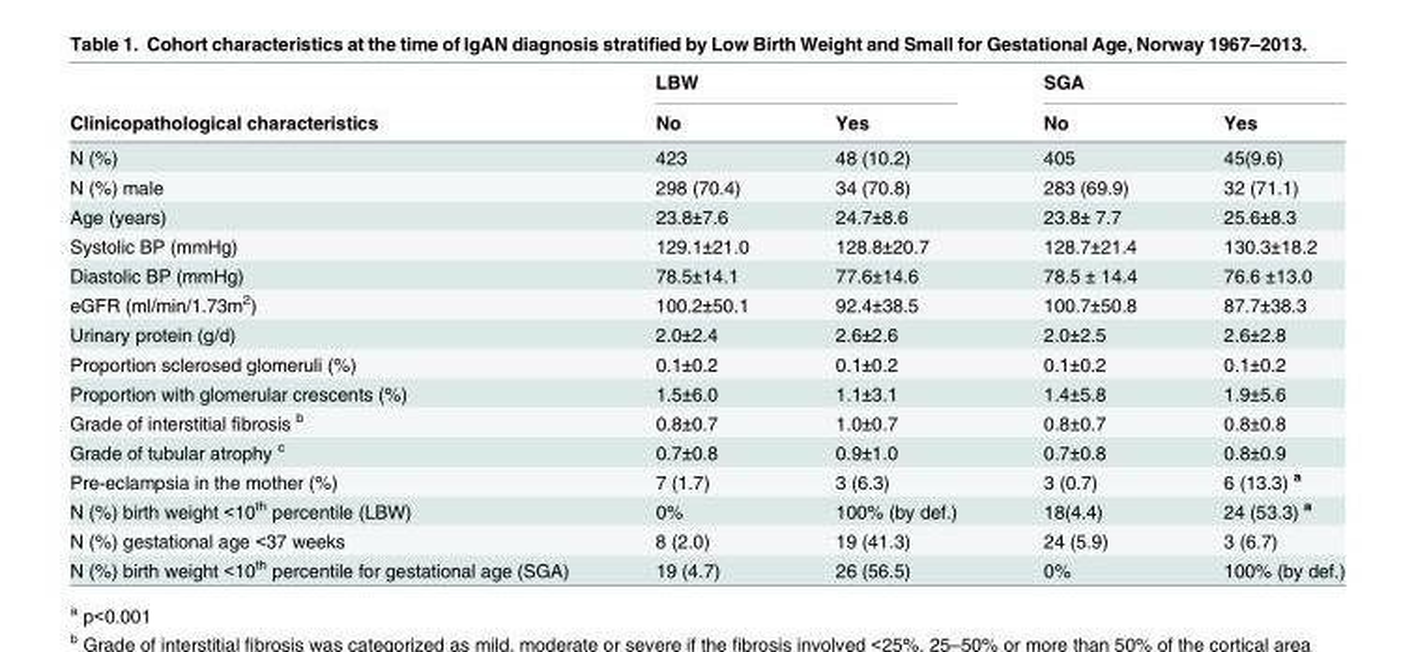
<table><thead><tr><td rowspan="2">Clinicopathological characteristics</td><td colspan="2">LBW</td><td colspan="2">SGA</td></tr><tr><td>No</td><td>Yes</td><td>No</td><td>Yes</td></tr></thead><tbody><tr><td>N (%)</td><td>423</td><td>48 (10.2)</td><td>405</td><td>45(9.6)</td></tr><tr><td>N (%) male</td><td>298 (70.4)</td><td>34 (70.8)</td><td>283 (69.9)</td><td>32 (71.1)</td></tr><tr><td>Age (years)</td><td>23.8±7.6</td><td>24.7±8.6</td><td>23.8± 7.7</td><td>25.6±8.3</td></tr><tr><td>Systolic BP (mmHg)</td><td>129.1±21.0</td><td>128.8±20.7</td><td>128.7±21.4</td><td>130.3±18.2</td></tr><tr><td>Diastolic BP (mmHg)</td><td>78.5±14.1</td><td>77.6±14.6</td><td>78.5 ± 14.4</td><td>76.6 ±13.0</td></tr><tr><td>eGFR (ml/min/1.73m<sup>2</sup>)</td><td>100.2±50.1</td><td>92.4±38.5</td><td>100.7±50.8</td><td>87.7±38.3</td></tr><tr><td>Urinary protein (g/d)</td><td>2.0±2.4</td><td>2.6±2.6</td><td>2.0±2.5</td><td>2.6±2.8</td></tr><tr><td>Proportion sclerosed glomeruli (%)</td><td>0.1±0.2</td><td>0.1±0.2</td><td>0.1±0.2</td><td>0.1±0.2</td></tr><tr><td>Proportion with glomerular crescents (%)</td><td>1.5±6.0</td><td>1.1±3.1</td><td>1.4±5.8</td><td>1.9±5.6</td></tr><tr><td>Grade of interstitial fibrosis <sup>b</sup></td><td>0.8±0.7</td><td>1.0±0.7</td><td>0.8±0.7</td><td>0.8±0.8</td></tr><tr><td>Grade of tubular atrophy <sup>c</sup></td><td>0.7±0.8</td><td>0.9±1.0</td><td>0.7±0.8</td><td>0.8±0.9</td></tr><tr><td>Pre-eclampsia in the mother (%)</td><td>7 (1.7)</td><td>3 (6.3)</td><td>3 (0.7)</td><td>6 (13.3) <sup>a</sup></td></tr><tr><td>N (%) birth weight &lt;10<sup>th</sup> percentile (LBW)</td><td>0%</td><td>100% (by def.)</td><td>18(4.4)</td><td>24 (53.3) <sup>a</sup></td></tr><tr><td>N (%) gestational age &lt;37 weeks</td><td>8 (2.0)</td><td>19 (41.3)</td><td>24 (5.9)</td><td>3 (6.7)</td></tr><tr><td>N (%) birth weight &lt;10<sup>th</sup> percentile for gestational age (SGA)</td><td>19 (4.7)</td><td>26 (56.5)</td><td>0%</td><td>100% (by def.)</td></tr></tbody></table>